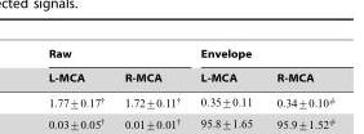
<table><thead><tr><td colspan="2">Raw</td><td colspan="2">Envelope</td></tr><tr><td>L-MCA</td><td>R-MCA</td><td>L-MCA</td><td>R-MCA</td></tr></thead><tbody></tbody></table>